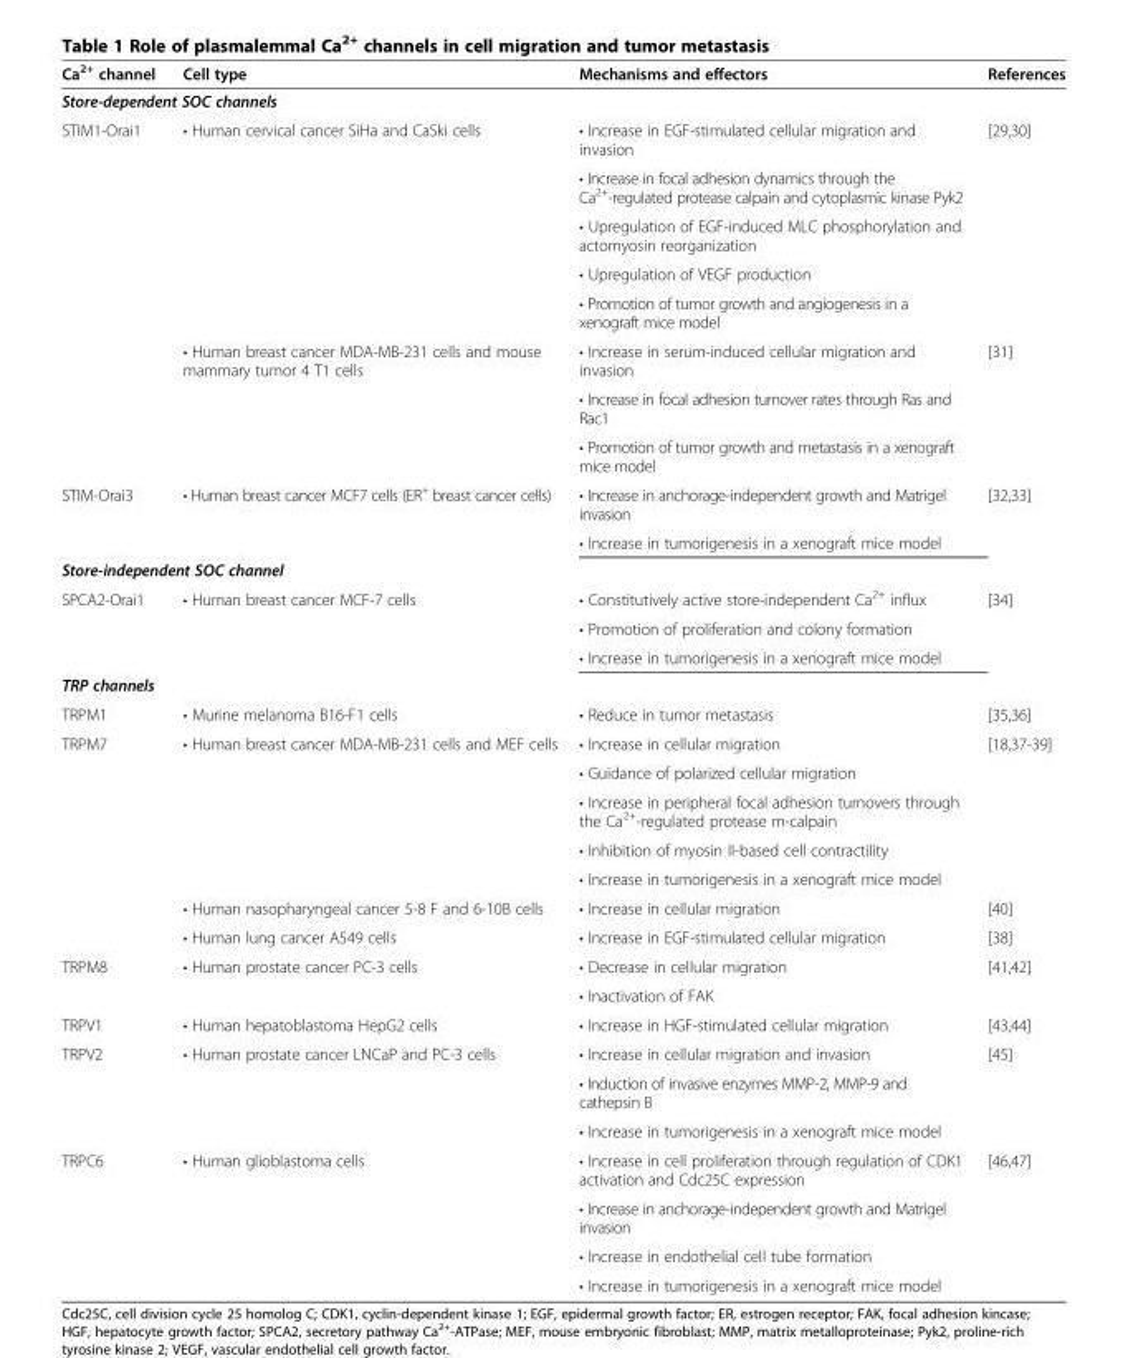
<table><thead><tr><td>Ca<sup>2+</sup> channel</td><td>Cell type</td><td>Mechanisms and effectors</td><td>References</td></tr></thead><tbody><tr><td colspan="4">Store-dependent SOC channels</td></tr><tr><td rowspan="8">STIM1-Orai1</td><td rowspan="5">• Human cervical cancer SiHa and CaSki cells</td><td>• Increase in EGF-stimulated cellular migration and invasion</td><td rowspan="5">[29,30]</td></tr><tr><td>• Increase in focal adhesion dynamics through the Ca<sup>2+</sup>-regulated protease calpain and cytoplasmic kinase Pyk2</td></tr><tr><td>• Upregulation of EGF-induced MLC phosphorylation and actomyosin reorganization</td></tr><tr><td>• Upregulation of VEGF production</td></tr><tr><td>• Promotion of tumor growth and angiogenesis in a xenograft mice model</td></tr><tr><td rowspan="3">• Human breast cancer MDA-MB-231 cells and mouse mammary tumor 4 T1 cells</td><td>• Increase in serum-induced cellular migration and invasion</td><td rowspan="3">[31]</td></tr><tr><td>• Increase in focal adhesion turnover rates through Ras and Rac1</td></tr><tr><td>• Promotion of tumor growth and metastasis in a xenograft mice model</td></tr><tr><td rowspan="2">STIM-Orai3</td><td>• Human breast cancer MCF7 cells (ER<sup>+</sup> breast cancer cells)</td><td>• Increase in anchorage-independent growth and Matrigel invasion</td><td>[32,33]</td></tr><tr><td></td><td>• Increase in tumorigenesis in a xenograft mice model</td><td></td></tr><tr><td colspan="4">Store-independent SOC channel</td></tr><tr><td rowspan="3">SPCA2-Orai1</td><td rowspan="2">• Human breast cancer MCF-7 cells</td><td>• Constitutively active store-independent Ca<sup>2+</sup> influx</td><td rowspan="2">[34]</td></tr><tr><td>• Promotion of proliferation and colony formation</td></tr><tr><td></td><td>• Increase in tumorigenesis in a xenograft mice model</td><td></td></tr><tr><td colspan="4">TRP channels</td></tr><tr><td>TRPM1</td><td>• Murine melanoma B16-F1 cells</td><td>• Reduce in tumor metastasis</td><td>[35,36]</td></tr><tr><td rowspan="7">TRPM7</td><td rowspan="5">• Human breast cancer MDA-MB-231 cells and MEF cells</td><td>• Increase in cellular migration</td><td rowspan="5">[18,37-39]</td></tr><tr><td>• Guidance of polarized cellular migration</td></tr><tr><td>• Increase in peripheral focal adhesion turnovers through the Ca<sup>2+</sup>-regulated protease m-calpain</td></tr><tr><td>• Inhibition of myosin II-based cell contractility</td></tr><tr><td>• Increase in tumorigenesis in a xenograft mice model</td></tr><tr><td>• Human nasopharyngeal cancer 5-8 F and 6-10B cells</td><td>• Increase in cellular migration</td><td>[40]</td></tr><tr><td>• Human lung cancer A549 cells</td><td>• Increase in EGF-stimulated cellular migration</td><td>[38]</td></tr><tr><td rowspan="2">TRPM8</td><td rowspan="2">• Human prostate cancer PC-3 cells</td><td>• Decrease in cellular migration</td><td rowspan="2">[41,42]</td></tr><tr><td>• Inactivation of FAK</td></tr><tr><td>TRPV1</td><td>• Human hepatoblastoma HepG2 cells</td><td>• Increase in HGF-stimulated cellular migration</td><td>[43,44]</td></tr><tr><td rowspan="3">TRPV2</td><td rowspan="3">• Human prostate cancer LNCaP and PC-3 cells</td><td>• Increase in cellular migration and invasion</td><td rowspan="3">[45]</td></tr><tr><td>• Induction of invasive enzymes MMP-2, MMP-9 and cathepsin B</td></tr><tr><td>• Increase in tumorigenesis in a xenograft mice model</td></tr><tr><td rowspan="4">TRPC6</td><td rowspan="3">• Human glioblastoma cells</td><td>• Increase in cell proliferation through regulation of CDK1 activation and Cdc25C expression</td><td rowspan="3">[46,47]</td></tr><tr><td>• Increase in anchorage-independent growth and Matrigel invasion</td></tr><tr><td>• Increase in endothelial cell tube formation</td></tr><tr><td></td><td>• Increase in tumorigenesis in a xenograft mice model</td><td></td></tr></tbody></table>